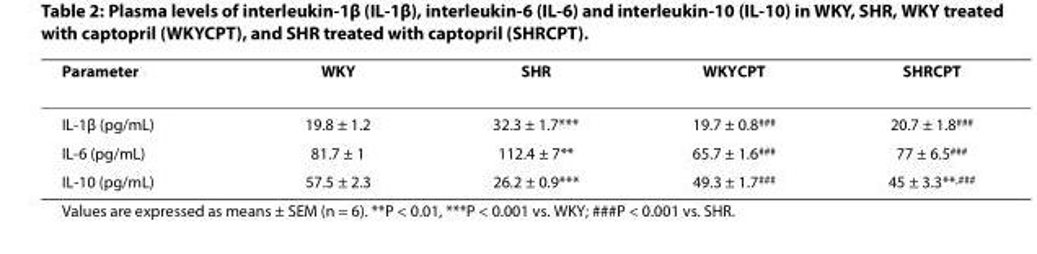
<table><thead><tr><td>Parameter</td><td>WKY</td><td>SHR</td><td>WKYCPT</td><td>SHRCPT</td></tr></thead><tbody><tr><td>IL-1β (pg/mL)</td><td>19.8 ± 1.2</td><td>32.3 ± 1.7***</td><td>19.7 ± 0.8<sup>###</sup></td><td>20.7 ± 1.8<sup>###</sup></td></tr><tr><td>IL-6 (pg/mL)</td><td>81.7 ± 1</td><td>112.4 ± 7**</td><td>65.7 ± 1.6<sup>###</sup></td><td>77 ± 6.5<sup>###</sup></td></tr><tr><td>IL-10 (pg/mL)</td><td>57.5 ± 2.3</td><td>26.2 ± 0.9***</td><td>49.3 ± 1.7<sup>###</sup></td><td>45 ± 3.3**<sup>,###</sup></td></tr></tbody></table>